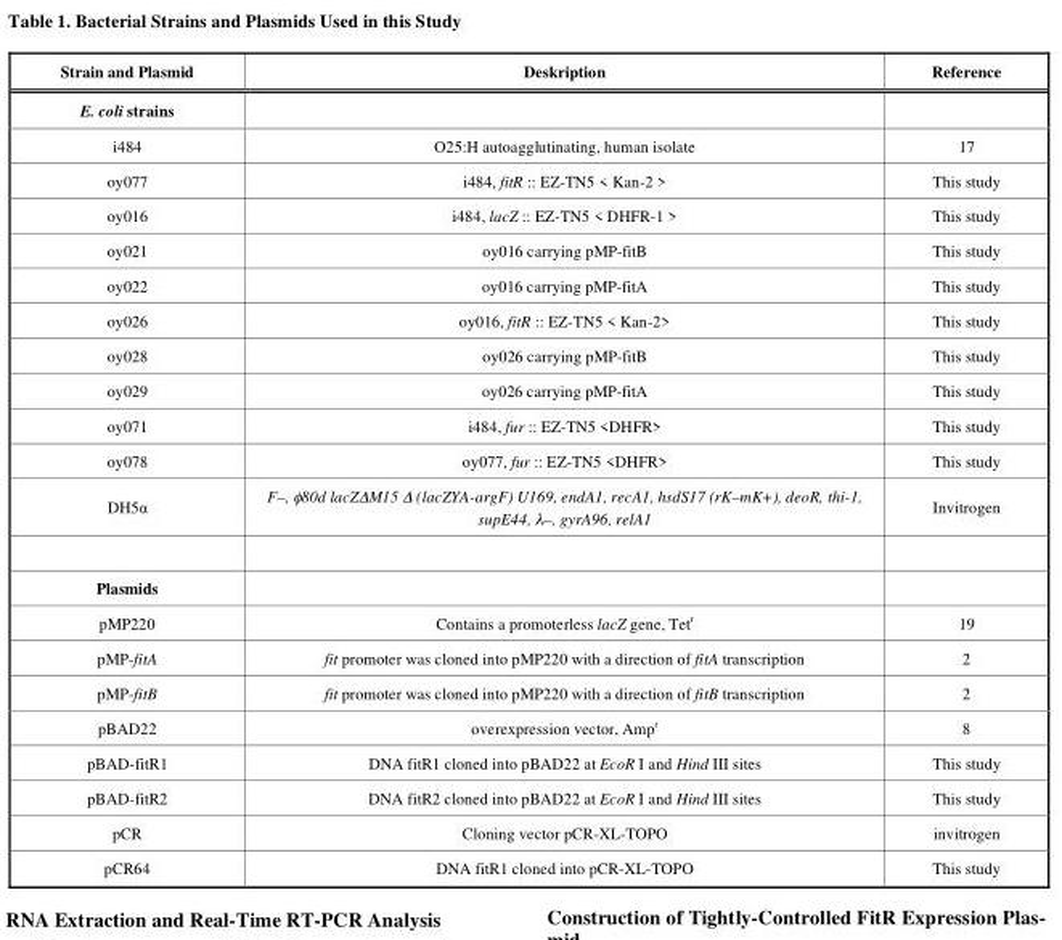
<table><thead><tr><td>Strain and Plasmid</td><td>Deskription</td><td>Reference</td></tr></thead><tbody><tr><td colspan="3">E. coli strains</td></tr><tr><td>i484</td><td>O25:H autoagglutinating, human isolate</td><td>17</td></tr><tr><td>oy077</td><td>i484, fitR :: EZ-TN5 &lt; Kan-2 &gt;</td><td>This study</td></tr><tr><td>oy016</td><td>i484, lacZ :: EZ-TN5 &lt; DHFR-1 &gt;</td><td>This study</td></tr><tr><td>oy021</td><td>oy016 carrying pMP-fitB</td><td>This study</td></tr><tr><td>oy022</td><td>oy016 carrying pMP-fitA</td><td>This study</td></tr><tr><td>oy026</td><td>oy016, fitR :: EZ-TN5 &lt; Kan-2&gt;</td><td>This study</td></tr><tr><td>oy028</td><td>oy026 carrying pMP-fitB</td><td>This study</td></tr><tr><td>oy029</td><td>oy026 carrying pMP-fitA</td><td>This study</td></tr><tr><td>oy071</td><td>i484, fur :: EZ-TN5 &lt;DHFR&gt;</td><td>This study</td></tr><tr><td>oy078</td><td>oy077, fur :: EZ-TN5 &lt;DHFR&gt;</td><td>This study</td></tr><tr><td>DH5α</td><td>F–, ф80d lacZ∆M15 ∆ (lacZYA-argF) U169, endA1, recA1, hsdS17 (rK–mK+), deoR, thi-1, supE44, λ–, gyrA96, relA1</td><td>Invitrogen</td></tr><tr><td colspan="3">Plasmids</td></tr><tr><td>pMP220</td><td>Contains a promoterless lacZ gene, Tet<sup>r</sup></td><td>19</td></tr><tr><td>pMP-fitA</td><td>fit promoter was cloned into pMP220 with a direction of fitA transcription</td><td>2</td></tr><tr><td>pMP-fitB</td><td>fit promoter was cloned into pMP220 with a direction of fitB transcription</td><td>2</td></tr><tr><td>pBAD22</td><td>overexpression vector, Amp<sup>r</sup></td><td>8</td></tr><tr><td>pBAD-fitR1</td><td>DNA fitR1 cloned into pBAD22 at EcoR I and Hind III sites</td><td>This study</td></tr><tr><td>pBAD-fitR2</td><td>DNA fitR2 cloned into pBAD22 at EcoR I and Hind III sites</td><td>This study</td></tr><tr><td>pCR</td><td>Cloning vector pCR-XL-TOPO</td><td>invitrogen</td></tr><tr><td>pCR64</td><td>DNA fitR1 cloned into pCR-XL-TOPO</td><td>This study</td></tr></tbody></table>